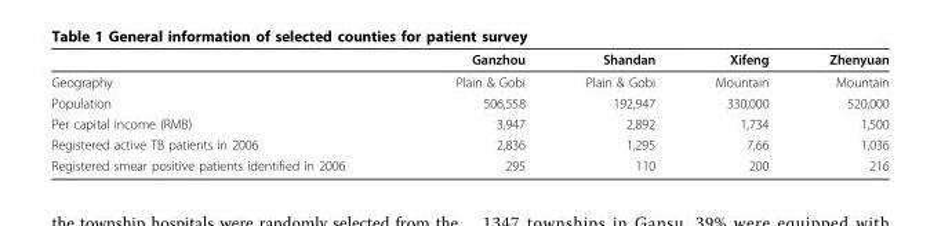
<table><thead><tr><td></td><td>Ganzhou</td><td>Shandan</td><td>Xifeng</td><td>Zhenyuan</td></tr></thead><tbody><tr><td>Geography</td><td>Plain &amp; Gobi</td><td>Plain &amp; Gobi</td><td>Mountain</td><td>Mountain</td></tr><tr><td>Population</td><td>506,558</td><td>192,947</td><td>330,000</td><td>520,000</td></tr><tr><td>Per capital income (RMB)</td><td>3,947</td><td>2,892</td><td>1,734</td><td>1,500</td></tr><tr><td>Registered active TB patients in 2006</td><td>2,836</td><td>1,295</td><td>7,66</td><td>1,036</td></tr><tr><td>Registered smear positive patients identified in 2006</td><td>295</td><td>110</td><td>200</td><td>216</td></tr></tbody></table>